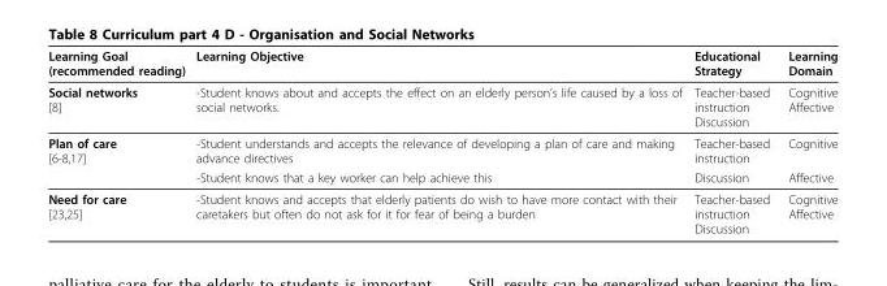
<table><thead><tr><td>Learning Goal (recommended reading)</td><td>Learning Objective</td><td>Educational Strategy</td><td>Learning Domain</td></tr></thead><tbody><tr><td>Social networks [8]</td><td>-Student knows about and accepts the effect on an elderly person’s life caused by a loss of social networks.</td><td>Teacher-based instruction Discussion</td><td>Cognitive Affective</td></tr><tr><td rowspan="2">Plan of care [6-8,17]</td><td>-Student understands and accepts the relevance of developing a plan of care and making advance directives</td><td>Teacher-based instruction</td><td>Cognitive</td></tr><tr><td>-Student knows that a key worker can help achieve this</td><td>Discussion</td><td>Affective</td></tr><tr><td>Need for care [23,25]</td><td>-Student knows and accepts that elderly patients do wish to have more contact with their caretakers but often do not ask for it for fear of being a burden</td><td>Teacher-based instruction Discussion</td><td>Cognitive Affective</td></tr></tbody></table>